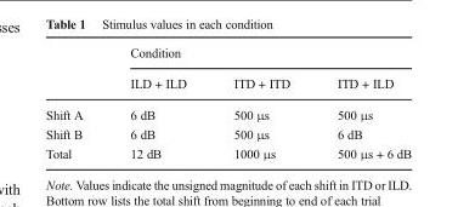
<table><thead><tr><td rowspan="2"></td><td colspan="3">Condition</td></tr><tr><td>ILD + ILD</td><td>ITD + ITD</td><td>ITD + ILD</td></tr></thead><tbody><tr><td>Shift A</td><td>6 dB</td><td>500 μs</td><td>500 μs</td></tr><tr><td>Shift B</td><td>6 dB</td><td>500 μs</td><td>6 dB</td></tr><tr><td>Total</td><td>12 dB</td><td>1000 μs</td><td>500 μs + 6 dB</td></tr></tbody></table>